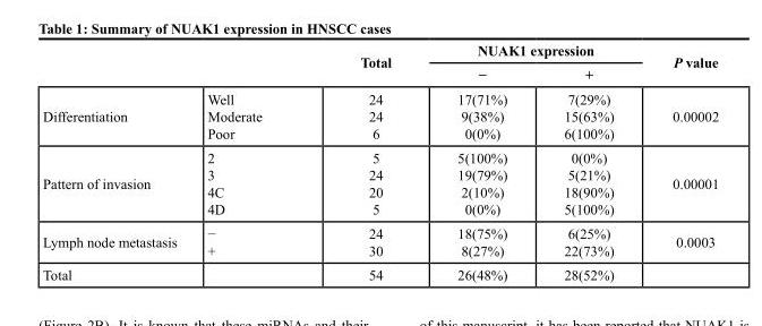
<table><thead><tr><td rowspan="2"></td><td rowspan="2"></td><td rowspan="2">Total</td><td colspan="2">NUAK1 expression</td><td rowspan="2">P value</td></tr><tr><td>−</td><td>+</td></tr></thead><tbody><tr><td>Differentiation</td><td>Well Moderate Poor</td><td>24 24 6</td><td>17(71%) 9(38%) 0(0%)</td><td>7(29%) 15(63%) 6(100%)</td><td>0.00002</td></tr><tr><td>Pattern of invasion</td><td>2 3 4C 4D</td><td>5 24 20 5</td><td>5(100%) 19(79%) 2(10%) 0(0%)</td><td>0(0%) 5(21%) 18(90%) 5(100%)</td><td>0.00001</td></tr><tr><td>Lymph node metastasis</td><td>− +</td><td>24 30</td><td>18(75%) 8(27%)</td><td>6(25%) 22(73%)</td><td>0.0003</td></tr><tr><td>Total</td><td></td><td>54</td><td>26(48%)</td><td>28(52%)</td><td></td></tr></tbody></table>